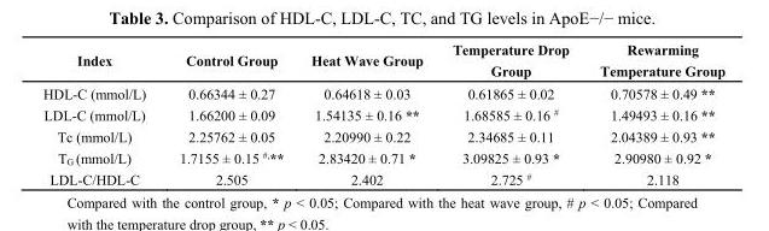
<table><thead><tr><td>Index</td><td>Control Group</td><td>Heat Wave Group</td><td>Temperature Drop Group</td><td>Rewarming Temperature Group</td></tr></thead><tbody><tr><td>HDL-C (mmol/L)</td><td>0.66344 ± 0.27</td><td>0.64618 ± 0.03</td><td>0.61865 ± 0.02</td><td>0.70578 ± 0.49 **</td></tr><tr><td>LDL-C (mmol/L)</td><td>1.66200 ± 0.09</td><td>1.54135 ± 0.16 **</td><td>1.68585 ± 0.16 <sup>#</sup></td><td>1.49493 ± 0.16 **</td></tr><tr><td>Tc (mmol/L)</td><td>2.25762 ± 0.05</td><td>2.20990 ± 0.22</td><td>2.34685 ± 0.11</td><td>2.04389 ± 0.93 **</td></tr><tr><td>T<sub>G</sub> (mmol/L)</td><td>1.7155 ± 0.15 <sup>#,</sup>**</td><td>2.83420 ± 0.71 *</td><td>3.09825 ± 0.93 *</td><td>2.90980 ± 0.92 *</td></tr><tr><td>LDL-C/HDL-C</td><td>2.505</td><td>2.402</td><td>2.725 <sup>#</sup></td><td>2.118</td></tr></tbody></table>